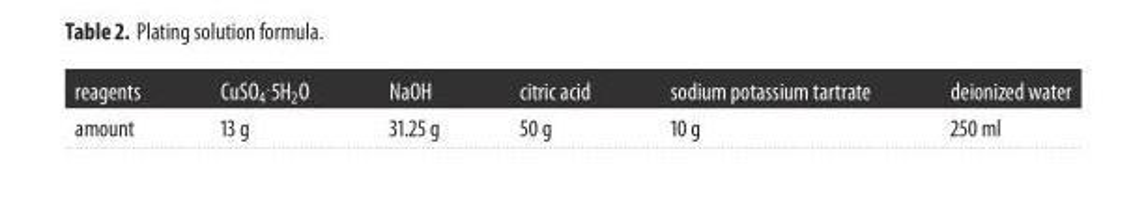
<table><thead><tr><td>reagents</td><td>CuSO<sub>4</sub><sup>.</sup>5H<sub>2</sub>O</td><td>NaOH</td><td>citric acid</td><td>sodium potassium tartrate</td><td>deionized water</td></tr></thead><tbody><tr><td>amount</td><td>13 g</td><td>31.25 g</td><td>50 g</td><td>10 g</td><td>250 ml</td></tr></tbody></table>